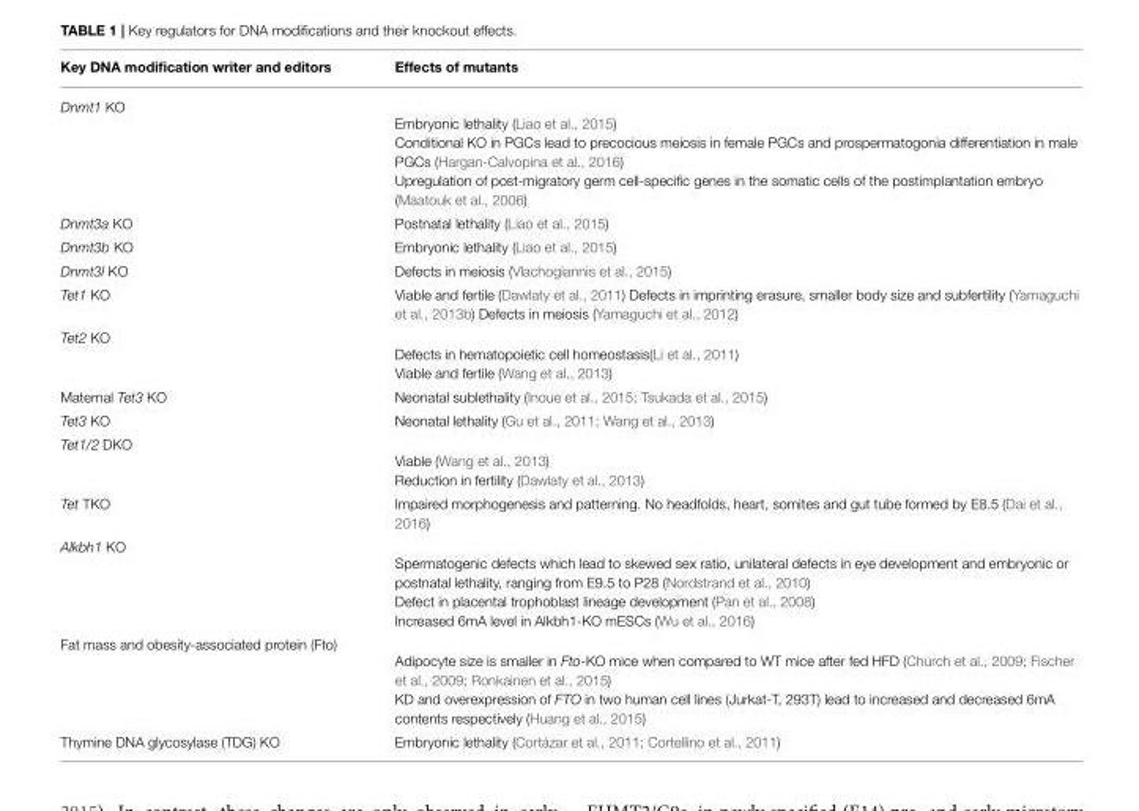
<table><thead><tr><td>Key DNA modification writer and editors</td><td>Effects of mutants</td></tr></thead><tbody><tr><td>Dnmt1 KO</td><td>Embryonic lethality (Liao et al., 2015) Conditional KO in PGCs lead to precocious meiosis in female PGCs and prospermatogonia differentiation in male PGCs (Hargan-Calvopina et al., 2016) Upregulation of post-migratory germ cell-specific genes in the somatic cells of the postimplantation embryo (Maatouk et al., 2006)</td></tr><tr><td>Dnmt3a KO</td><td>Postnatal lethality (Liao et al., 2015)</td></tr><tr><td>Dnmt3b KO</td><td>Embryonic lethality (Liao et al., 2015)</td></tr><tr><td>Dnmt3l KO</td><td>Defects in meiosis (Vlachogiannis et al., 2015)</td></tr><tr><td>Tet1 KO</td><td>Viable and fertile (Dawlaty et al., 2011) Defects in imprinting erasure, smaller body size and subfertility (Yamaguchi et al., 2013b) Defects in meiosis (Yamaguchi et al., 2012)</td></tr><tr><td>Tet2 KO</td><td>Defects in hematopoietic cell homeostasis(Li et al., 2011) Viable and fertile (Wang et al., 2013)</td></tr><tr><td>Maternal Tet3 KO</td><td>Neonatal sublethality (Inoue et al., 2015; Tsukada et al., 2015)</td></tr><tr><td>Tet3 KO</td><td>Neonatal lethality (Gu et al., 2011; Wang et al., 2013)</td></tr><tr><td>Tet1/2 DKO</td><td>Viable (Wang et al., 2013) Reduction in fertility (Dawlaty et al., 2013)</td></tr><tr><td>Tet TKO</td><td>Impaired morphogenesis and patterning. No headfolds, heart, somites and gut tube formed by E8.5 (Dai et al., 2016)</td></tr><tr><td>Alkbh1 KO</td><td>Spermatogenic defects which lead to skewed sex ratio, unilateral defects in eye development and embryonic or postnatal lethality, ranging from E9.5 to P28 (Nordstrand et al., 2010) Defect in placental trophoblast lineage development (Pan et al., 2008) Increased 6mA level in Alkbh1-KO mESCs (Wu et al., 2016)</td></tr><tr><td>Fat mass and obesity-associated protein (Fto)</td><td>Adipocyte size is smaller in Fto-KO mice when compared to WT mice after fed HFD (Church et al., 2009; Fischer et al., 2009; Ronkainen et al., 2015) KD and overexpression of FTO in two human cell lines (Jurkat-T, 293T) lead to increased and decreased 6mA contents respectively (Huang et al., 2015)</td></tr><tr><td>Thymine DNA glycosylase (TDG) KO</td><td>Embryonic lethality (Cortázar et al., 2011; Cortellino et al., 2011)</td></tr></tbody></table>